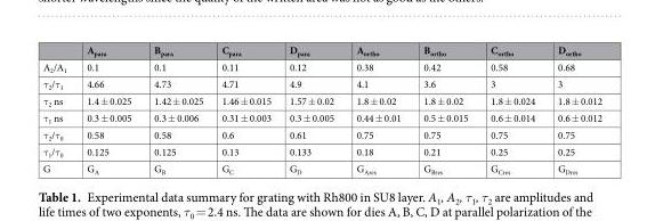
<table><thead><tr><td></td><td>A<sub>para</sub></td><td>B<sub>para</sub></td><td>C<sub>para</sub></td><td>D<sub>para</sub></td><td>A<sub>ortho</sub></td><td>B<sub>ortho</sub></td><td>C<sub>ortho</sub></td><td>D<sub>ortho</sub></td></tr></thead><tbody><tr><td>A<sub>2</sub>/A<sub>1</sub></td><td>0.1</td><td>0.1</td><td>0.11</td><td>0.12</td><td>0.38</td><td>0.42</td><td>0.58</td><td>0.68</td></tr><tr><td>τ<sub>2</sub>/τ<sub>1</sub></td><td>4.66</td><td>4.73</td><td>4.71</td><td>4.9</td><td>4.1</td><td>3.6</td><td>3</td><td>3</td></tr><tr><td>τ<sub>2</sub> ns</td><td>1.4 ± 0.025</td><td>1.42 ± 0.025</td><td>1.46 ± 0.015</td><td>1.57 ± 0.02</td><td>1.8 ± 0.02</td><td>1.8 ± 0.02</td><td>1.8 ± 0.024</td><td>1.8 ± 0.012</td></tr><tr><td>τ<sub>1</sub> ns</td><td>0.3 ± 0.005</td><td>0.3 ± 0.006</td><td>0.31 ± 0.003</td><td>0.3 ± 0.005</td><td>0.44 ± 0.01</td><td>0.5 ± 0.015</td><td>0.6 ± 0.014</td><td>0.6 ± 0.012</td></tr><tr><td>τ<sub>2</sub>/τ<sub>0</sub></td><td>0.58</td><td>0.58</td><td>0.6</td><td>0.61</td><td>0.75</td><td>0.75</td><td>0.75</td><td>0.75</td></tr><tr><td>τ<sub>1</sub>/τ<sub>0</sub></td><td>0.125</td><td>0.125</td><td>0.13</td><td>0.133</td><td>0.18</td><td>0.21</td><td>0.25</td><td>0.25</td></tr><tr><td>G</td><td>G<sub>A</sub></td><td>G<sub>B</sub></td><td>G<sub>C</sub></td><td>G<sub>D</sub></td><td>G<sub>Ares</sub></td><td>G<sub>Bres</sub></td><td>G<sub>Cres</sub></td><td>G<sub>Dres</sub></td></tr></tbody></table>